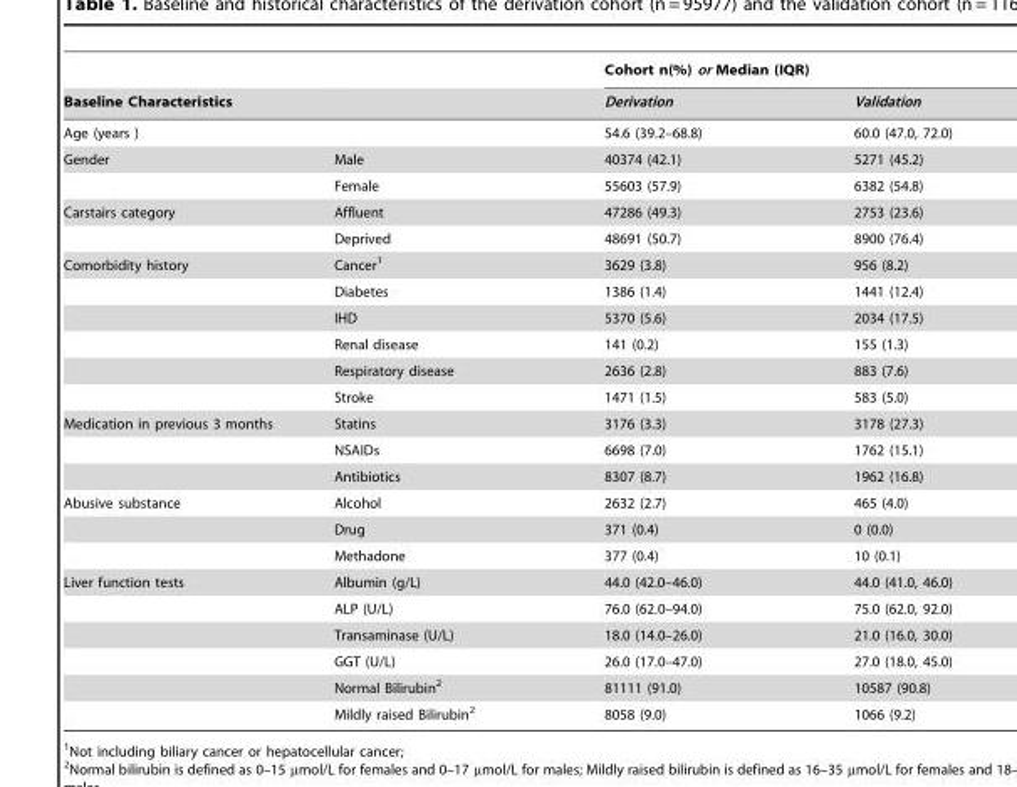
<table><thead><tr><td rowspan="2">Baseline Characteristics</td><td rowspan="2"></td><td colspan="2">Cohort n(%) or Median (IQR)</td></tr><tr><td>Derivation</td><td>Validation</td></tr></thead><tbody><tr><td>Age (years )</td><td></td><td>54.6 (39.2–68.8)</td><td>60.0 (47.0, 72.0)</td></tr><tr><td rowspan="2">Gender</td><td>Male</td><td>40374 (42.1)</td><td>5271 (45.2)</td></tr><tr><td>Female</td><td>55603 (57.9)</td><td>6382 (54.8)</td></tr><tr><td rowspan="2">Carstairs category</td><td>Affluent</td><td>47286 (49.3)</td><td>2753 (23.6)</td></tr><tr><td>Deprived</td><td>48691 (50.7)</td><td>8900 (76.4)</td></tr><tr><td rowspan="6">Comorbidity history</td><td>Cancer<sup>1</sup></td><td>3629 (3.8)</td><td>956 (8.2)</td></tr><tr><td>Diabetes</td><td>1386 (1.4)</td><td>1441 (12.4)</td></tr><tr><td>IHD</td><td>5370 (5.6)</td><td>2034 (17.5)</td></tr><tr><td>Renal disease</td><td>141 (0.2)</td><td>155 (1.3)</td></tr><tr><td>Respiratory disease</td><td>2636 (2.8)</td><td>883 (7.6)</td></tr><tr><td>Stroke</td><td>1471 (1.5)</td><td>583 (5.0)</td></tr><tr><td rowspan="3">Medication in previous 3 months</td><td>Statins</td><td>3176 (3.3)</td><td>3178 (27.3)</td></tr><tr><td>NSAIDs</td><td>6698 (7.0)</td><td>1762 (15.1)</td></tr><tr><td>Antibiotics</td><td>8307 (8.7)</td><td>1962 (16.8)</td></tr><tr><td rowspan="3">Abusive substance</td><td>Alcohol</td><td>2632 (2.7)</td><td>465 (4.0)</td></tr><tr><td>Drug</td><td>371 (0.4)</td><td>0 (0.0)</td></tr><tr><td>Methadone</td><td>377 (0.4)</td><td>10 (0.1)</td></tr><tr><td rowspan="6">Liver function tests</td><td>Albumin (g/L)</td><td>44.0 (42.0–46.0)</td><td>44.0 (41.0, 46.0)</td></tr><tr><td>ALP (U/L)</td><td>76.0 (62.0–94.0)</td><td>75.0 (62.0, 92.0)</td></tr><tr><td>Transaminase (U/L)</td><td>18.0 (14.0–26.0)</td><td>21.0 (16.0, 30.0)</td></tr><tr><td>GGT (U/L)</td><td>26.0 (17.0–47.0)</td><td>27.0 (18.0, 45.0)</td></tr><tr><td>Normal Bilirubin<sup>2</sup></td><td>81111 (91.0)</td><td>10587 (90.8)</td></tr><tr><td>Mildly raised Bilirubin<sup>2</sup></td><td>8058 (9.0)</td><td>1066 (9.2)</td></tr></tbody></table>